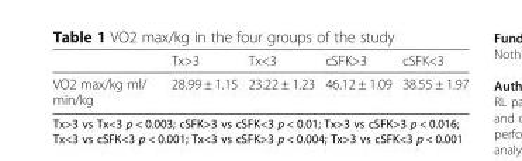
<table><thead><tr><td></td><td>Tx&gt;3</td><td>Tx&lt;3</td><td>cSFK&gt;3</td><td>cSFK&lt;3</td></tr></thead><tbody><tr><td>VO2 max/kg ml/ min/kg</td><td>28.99 ± 1.15</td><td>23.22 ± 1.23</td><td>46.12 ± 1.09</td><td>38.55 ± 1.97</td></tr></tbody></table>